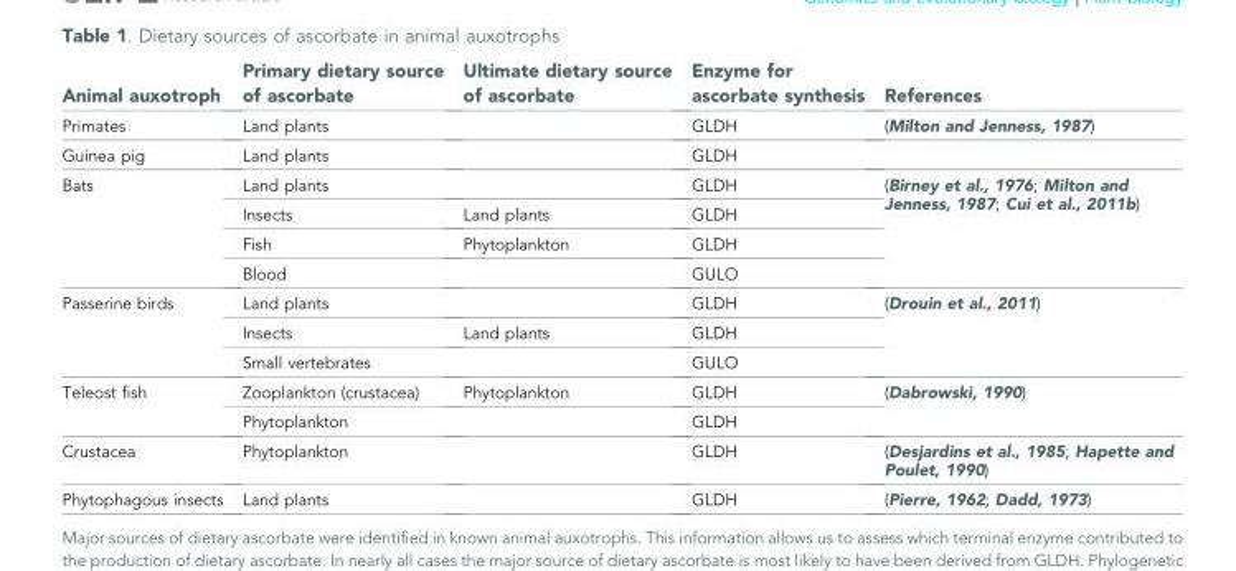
<table><thead><tr><td>Animal auxotroph</td><td>Primary dietary source of ascorbate</td><td>Ultimate dietary source of ascorbate</td><td>Enzyme for ascorbate synthesis</td><td>References</td></tr></thead><tbody><tr><td>Primates</td><td>Land plants</td><td></td><td>GLDH</td><td>(Milton and Jenness, 1987)</td></tr><tr><td>Guinea pig</td><td>Land plants</td><td></td><td>GLDH</td><td></td></tr><tr><td rowspan="4">Bats</td><td>Land plants</td><td></td><td>GLDH</td><td rowspan="4">(Birney et al., 1976; Milton and Jenness, 1987; Cui et al., 2011b)</td></tr><tr><td>Insects</td><td>Land plants</td><td>GLDH</td></tr><tr><td>Fish</td><td>Phytoplankton</td><td>GLDH</td></tr><tr><td>Blood</td><td></td><td>GULO</td></tr><tr><td rowspan="3">Passerine birds</td><td>Land plants</td><td></td><td>GLDH</td><td rowspan="3">(Drouin et al., 2011)</td></tr><tr><td>Insects</td><td>Land plants</td><td>GLDH</td></tr><tr><td>Small vertebrates</td><td></td><td>GULO</td></tr><tr><td rowspan="2">Teleost fish</td><td>Zooplankton (crustacea)</td><td>Phytoplankton</td><td>GLDH</td><td rowspan="2">(Dabrowski, 1990)</td></tr><tr><td>Phytoplankton</td><td></td><td>GLDH</td></tr><tr><td>Crustacea</td><td>Phytoplankton</td><td></td><td>GLDH</td><td>(Desjardins et al., 1985; Hapette and Poulet, 1990)</td></tr><tr><td>Phytophagous insects</td><td>Land plants</td><td></td><td>GLDH</td><td>(Pierre, 1962; Dadd, 1973)</td></tr></tbody></table>